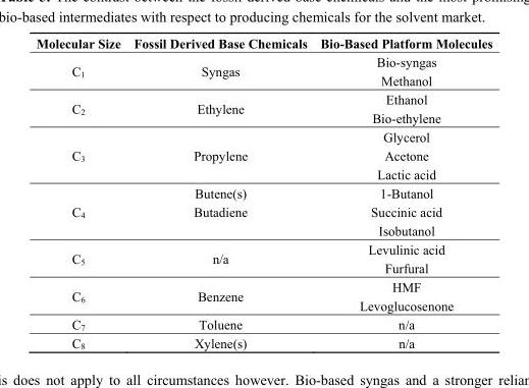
<table><thead><tr><td>Molecular Size</td><td>Fossil Derived Base Chemicals</td><td>Bio-Based Platform Molecules</td></tr></thead><tbody><tr><td rowspan="2">C<sub>1</sub></td><td rowspan="2">Syngas</td><td>Bio-syngas</td></tr><tr><td>Methanol</td></tr><tr><td rowspan="2">C<sub>2</sub></td><td rowspan="2">Ethylene</td><td>Ethanol</td></tr><tr><td>Bio-ethylene</td></tr><tr><td rowspan="3">C<sub>3</sub></td><td rowspan="3">Propylene</td><td>Glycerol</td></tr><tr><td>Acetone</td></tr><tr><td>Lactic acid</td></tr><tr><td rowspan="3">C<sub>4</sub></td><td>Butene(s)</td><td>1-Butanol</td></tr><tr><td>Butadiene</td><td>Succinic acid</td></tr><tr><td></td><td>Isobutanol</td></tr><tr><td rowspan="2">C<sub>5</sub></td><td rowspan="2">n/a</td><td>Levulinic acid</td></tr><tr><td>Furfural</td></tr><tr><td rowspan="2">C<sub>6</sub></td><td rowspan="2">Benzene</td><td>HMF</td></tr><tr><td>Levoglucosenone</td></tr><tr><td>C<sub>7</sub></td><td>Toluene</td><td>n/a</td></tr><tr><td>C<sub>8</sub></td><td>Xylene(s)</td><td>n/a</td></tr></tbody></table>